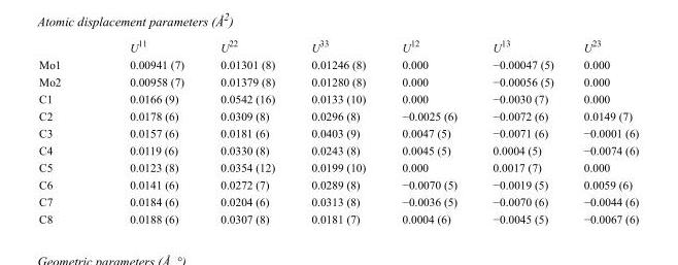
<table><thead><tr><td></td><td>U<sup>11</sup></td><td>U<sup>22</sup></td><td>U<sup>33</sup></td><td>U<sup>12</sup></td><td>U<sup>13</sup></td><td>U<sup>23</sup></td></tr></thead><tbody><tr><td>Mo1</td><td>0.00941 (7)</td><td>0.01301 (8)</td><td>0.01246 (8)</td><td>0.000</td><td>−0.00047 (5)</td><td>0.000</td></tr><tr><td>Mo2</td><td>0.00958 (7)</td><td>0.01379 (8)</td><td>0.01280 (8)</td><td>0.000</td><td>−0.00056 (5)</td><td>0.000</td></tr><tr><td>C1</td><td>0.0166 (9)</td><td>0.0542 (16)</td><td>0.0133 (10)</td><td>0.000</td><td>−0.0030 (7)</td><td>0.000</td></tr><tr><td>C2</td><td>0.0178 (6)</td><td>0.0309 (8)</td><td>0.0296 (8)</td><td>−0.0025 (6)</td><td>−0.0072 (6)</td><td>0.0149 (7)</td></tr><tr><td>C3</td><td>0.0157 (6)</td><td>0.0181 (6)</td><td>0.0403 (9)</td><td>0.0047 (5)</td><td>−0.0071 (6)</td><td>−0.0001 (6)</td></tr><tr><td>C4</td><td>0.0119 (6)</td><td>0.0330 (8)</td><td>0.0243 (8)</td><td>0.0045 (5)</td><td>0.0004 (5)</td><td>−0.0074 (6)</td></tr><tr><td>C5</td><td>0.0123 (8)</td><td>0.0354 (12)</td><td>0.0199 (10)</td><td>0.000</td><td>0.0017 (7)</td><td>0.000</td></tr><tr><td>C6</td><td>0.0141 (6)</td><td>0.0272 (7)</td><td>0.0289 (8)</td><td>−0.0070 (5)</td><td>−0.0019 (5)</td><td>0.0059 (6)</td></tr><tr><td>C7</td><td>0.0184 (6)</td><td>0.0204 (6)</td><td>0.0313 (8)</td><td>−0.0036 (5)</td><td>−0.0070 (6)</td><td>−0.0044 (6)</td></tr><tr><td>C8</td><td>0.0188 (6)</td><td>0.0307 (8)</td><td>0.0181 (7)</td><td>0.0004 (6)</td><td>−0.0045 (5)</td><td>−0.0067 (6)</td></tr></tbody></table>